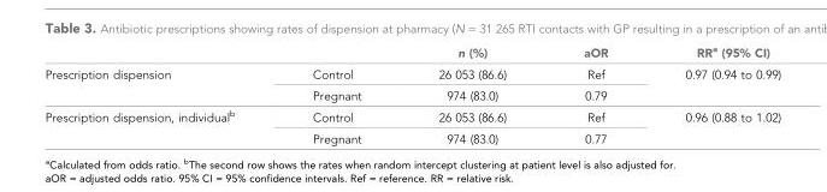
<table><thead><tr><td></td><td></td><td>n (%)</td><td>aOR</td><td>RR<sup>a</sup> (95% CI)</td></tr></thead><tbody><tr><td rowspan="2">Prescription dispension</td><td>Control</td><td>26 053 (86.6)</td><td>Ref</td><td rowspan="2">0.97 (0.94 to 0.99)</td></tr><tr><td>Pregnant</td><td>974 (83.0)</td><td>0.79</td></tr><tr><td rowspan="2">Prescription dispension, individual<sup>b</sup></td><td>Control</td><td>26 053 (86.6)</td><td>Ref</td><td rowspan="2">0.96 (0.88 to 1.02)</td></tr><tr><td>Pregnant</td><td>974 (83.0)</td><td>0.77</td></tr></tbody></table>